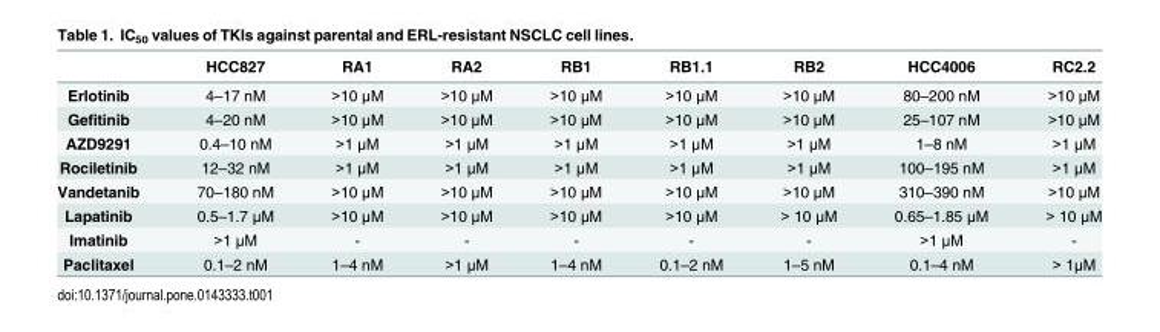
<table><thead><tr><td></td><td>HCC827</td><td>RA1</td><td>RA2</td><td>RB1</td><td>RB1.1</td><td>RB2</td><td>HCC4006</td><td>RC2.2</td></tr></thead><tbody><tr><td>Erlotinib</td><td>4–17 nM</td><td>&gt;10 μM</td><td>&gt;10 μM</td><td>&gt;10 μM</td><td>&gt;10 μM</td><td>&gt;10 μM</td><td>80–200 nM</td><td>&gt;10 μM</td></tr><tr><td>Gefitinib</td><td>4–20 nM</td><td>&gt;10 μM</td><td>&gt;10 μM</td><td>&gt;10 μM</td><td>&gt;10 μM</td><td>&gt;10 μM</td><td>25–107 nM</td><td>&gt;10 μM</td></tr><tr><td>AZD9291</td><td>0.4–10 nM</td><td>&gt;1 μM</td><td>&gt;1 μM</td><td>&gt;1 μM</td><td>&gt;1 μM</td><td>&gt;1 μM</td><td>1–8 nM</td><td>&gt;1 μM</td></tr><tr><td>Rociletinib</td><td>12–32 nM</td><td>&gt;1 μM</td><td>&gt;1 μM</td><td>&gt;1 μM</td><td>&gt;1 μM</td><td>&gt;1 μM</td><td>100–195 nM</td><td>&gt;1 μM</td></tr><tr><td>Vandetanib</td><td>70–180 nM</td><td>&gt;10 μM</td><td>&gt;10 μM</td><td>&gt;10 μM</td><td>&gt;10 μM</td><td>&gt;10 μM</td><td>310–390 nM</td><td>&gt;10 μM</td></tr><tr><td>Lapatinib</td><td>0.5–1.7 μM</td><td>&gt;10 μM</td><td>&gt;10 μM</td><td>&gt;10 μM</td><td>&gt;10 μM</td><td>&gt; 10 μM</td><td>0.65–1.85 μM</td><td>&gt; 10 μM</td></tr><tr><td>Imatinib</td><td>&gt;1 μM</td><td>-</td><td>-</td><td>-</td><td>-</td><td>-</td><td>&gt;1 μM</td><td>-</td></tr><tr><td>Paclitaxel</td><td>0.1–2 nM</td><td>1–4 nM</td><td>&gt;1 μM</td><td>1–4 nM</td><td>0.1–2 nM</td><td>1–5 nM</td><td>0.1–4 nM</td><td>&gt; 1μM</td></tr></tbody></table>